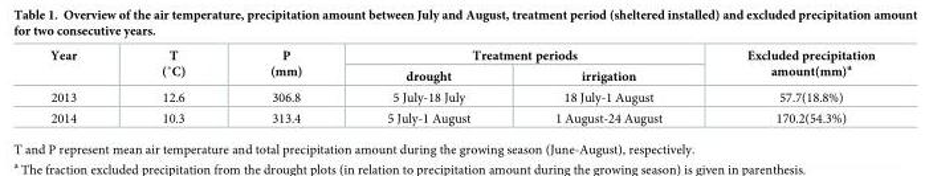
<table><thead><tr><td rowspan="2">Year</td><td rowspan="2">T (˚C)</td><td rowspan="2">P (mm)</td><td colspan="2">Treatment periods</td><td rowspan="2">Excluded precipitation amount(mm)<sup>a</sup></td></tr><tr><td>drought</td><td>irrigation</td></tr></thead><tbody><tr><td>2013</td><td>12.6</td><td>306.8</td><td>5 July-18 July</td><td>18 July-1 August</td><td>57.7(18.8%)</td></tr><tr><td>2014</td><td>10.3</td><td>313.4</td><td>5 July-1 August</td><td>1 August-24 August</td><td>170.2(54.3%)</td></tr></tbody></table>